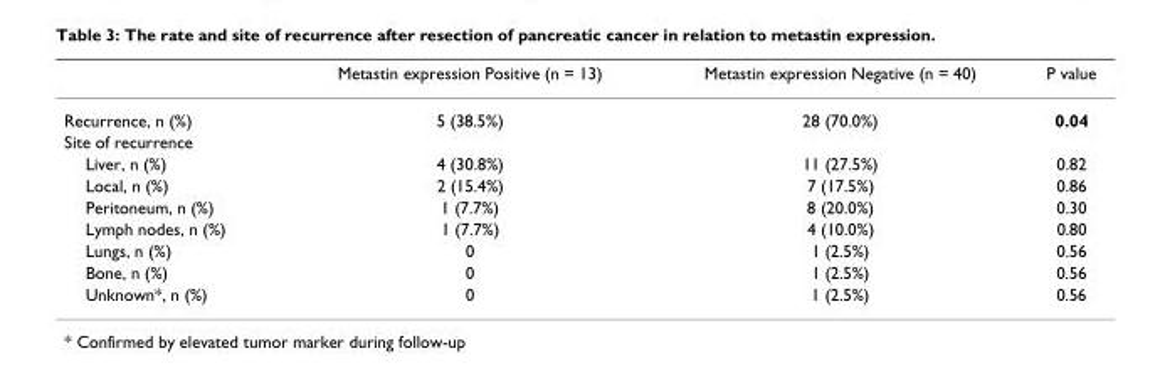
<table><thead><tr><td></td><td>Metastin expression Positive (n = 13)</td><td>Metastin expression Negative (n = 40)</td><td>P value</td></tr></thead><tbody><tr><td>Recurrence, n (%)</td><td>5 (38.5%)</td><td>28 (70.0%)</td><td>0.04</td></tr><tr><td colspan="4">Site of recurrence</td></tr><tr><td>Liver, n (%)</td><td>4 (30.8%)</td><td>11 (27.5%)</td><td>0.82</td></tr><tr><td>Local, n (%)</td><td>2 (15.4%)</td><td>7 (17.5%)</td><td>0.86</td></tr><tr><td>Peritoneum, n (%)</td><td>1 (7.7%)</td><td>8 (20.0%)</td><td>0.30</td></tr><tr><td>Lymph nodes, n (%)</td><td>1 (7.7%)</td><td>4 (10.0%)</td><td>0.80</td></tr><tr><td>Lungs, n (%)</td><td>0</td><td>1 (2.5%)</td><td>0.56</td></tr><tr><td>Bone, n (%)</td><td>0</td><td>1 (2.5%)</td><td>0.56</td></tr><tr><td>Unknown*, n (%)</td><td>0</td><td>1 (2.5%)</td><td>0.56</td></tr></tbody></table>